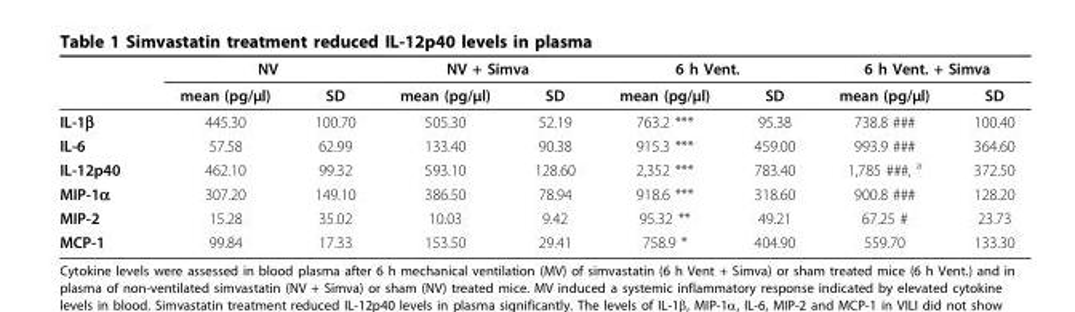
<table><thead><tr><td rowspan="2"></td><td colspan="2">NV</td><td colspan="2">NV + Simva</td><td colspan="2">6 h Vent.</td><td colspan="2">6 h Vent. + Simva</td></tr><tr><td>mean (pg/μl)</td><td>SD</td><td>mean (pg/μl)</td><td>SD</td><td>mean (pg/μl)</td><td>SD</td><td>mean (pg/μl)</td><td>SD</td></tr></thead><tbody><tr><td>IL-1β</td><td>445.30</td><td>100.70</td><td>505.30</td><td>52.19</td><td>763.2 ***</td><td>95.38</td><td>738.8 ###</td><td>100.40</td></tr><tr><td>IL-6</td><td>57.58</td><td>62.99</td><td>133.40</td><td>90.38</td><td>915.3 ***</td><td>459.00</td><td>993.9 ###</td><td>364.60</td></tr><tr><td>IL-12p40</td><td>462.10</td><td>99.32</td><td>593.10</td><td>128.60</td><td>2,352 ***</td><td>783.40</td><td>1,785 ###, <sup>a</sup></td><td>372.50</td></tr><tr><td>MIP-1α</td><td>307.20</td><td>149.10</td><td>386.50</td><td>78.94</td><td>918.6 ***</td><td>318.60</td><td>900.8 ###</td><td>128.20</td></tr><tr><td>MIP-2</td><td>15.28</td><td>35.02</td><td>10.03</td><td>9.42</td><td>95.32 **</td><td>49.21</td><td>67.25 #</td><td>23.73</td></tr><tr><td>MCP-1</td><td>99.84</td><td>17.33</td><td>153.50</td><td>29.41</td><td>758.9 *</td><td>404.90</td><td>559.70</td><td>133.30</td></tr></tbody></table>